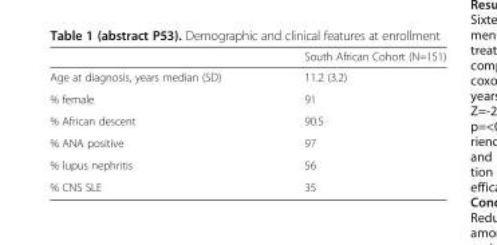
<table><thead><tr><td></td><td>South African Cohort (N=151)</td></tr></thead><tbody><tr><td>Age at diagnosis, years median (SD)</td><td>11.2 (3.2)</td></tr><tr><td>% female</td><td>91</td></tr><tr><td>% African descent</td><td>90.5</td></tr><tr><td>% ANA positive</td><td>97</td></tr><tr><td>% lupus nephritis</td><td>56</td></tr><tr><td>% CNS SLE</td><td>35</td></tr></tbody></table>